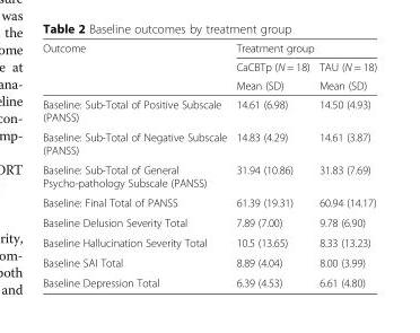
<table><thead><tr><td rowspan="3">Outcome</td><td colspan="2">Treatment group</td></tr><tr><td rowspan="2">CaCBTp (N = 18) Mean (SD)</td><td rowspan="2">TAU (N = 18) Mean (SD)</td></tr><tr></tr></thead><tbody><tr><td>Baseline: Sub-Total of Positive Subscale (PANSS)</td><td>14.61 (6.98)</td><td>14.50 (4.93)</td></tr><tr><td>Baseline: Sub-Total of Negative Subscale (PANSS)</td><td>14.83 (4.29)</td><td>14.61 (3.87)</td></tr><tr><td>Baseline: Sub-Total of General Psycho-pathology Subscale (PANSS)</td><td>31.94 (10.86)</td><td>31.83 (7.69)</td></tr><tr><td>Baseline: Final Total of PANSS</td><td>61.39 (19.31)</td><td>60.94 (14.17)</td></tr><tr><td>Baseline Delusion Severity Total</td><td>7.89 (7.00)</td><td>9.78 (6.90)</td></tr><tr><td>Baseline Hallucination Severity Total</td><td>10.5 (13.65)</td><td>8.33 (13.23)</td></tr><tr><td>Baseline SAI Total</td><td>8.89 (4.04)</td><td>8.00 (3.99)</td></tr><tr><td>Baseline Depression Total</td><td>6.39 (4.53)</td><td>6.61 (4.80)</td></tr></tbody></table>